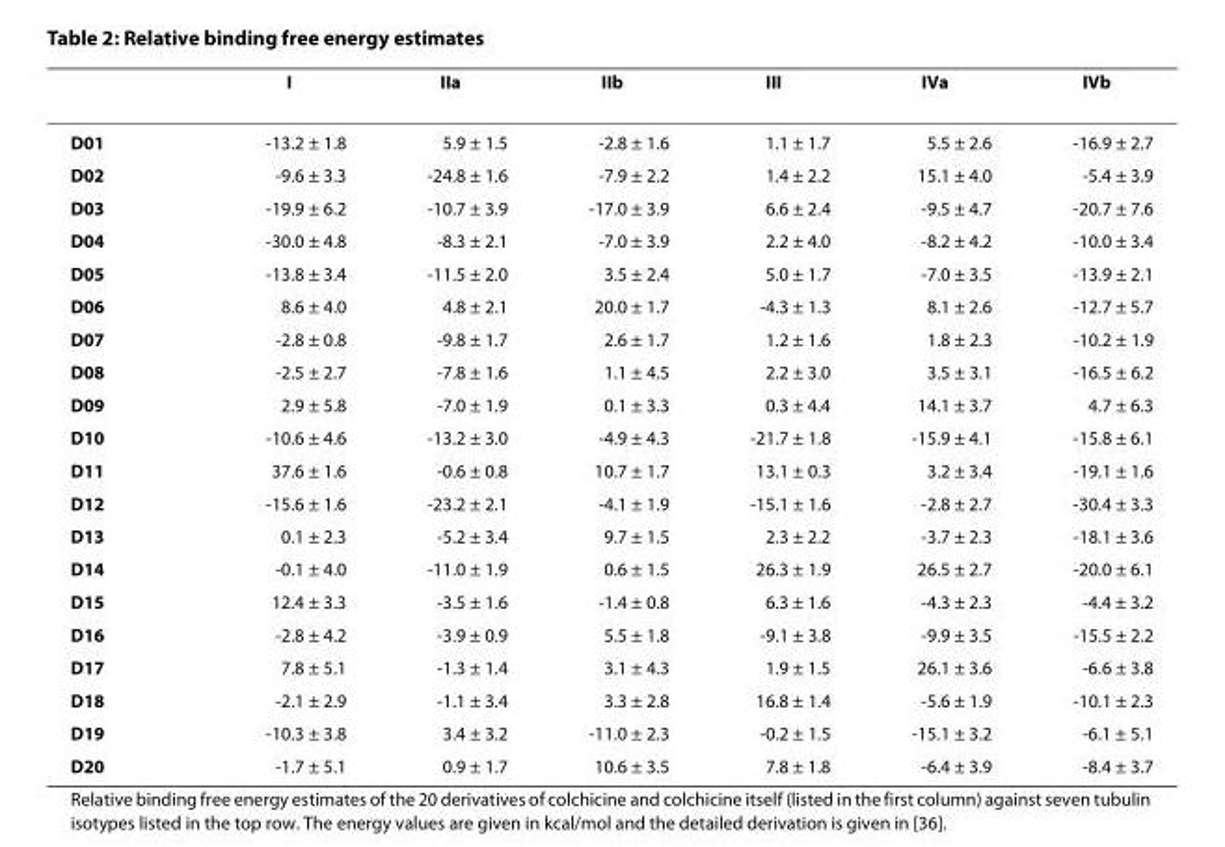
<table><thead><tr><td></td><td>I</td><td>IIa</td><td>IIb</td><td>III</td><td>IVa</td><td>IVb</td></tr></thead><tbody><tr><td>D01</td><td>-13.2 ± 1.8</td><td>5.9 ± 1.5</td><td>-2.8 ± 1.6</td><td>1.1 ± 1.7</td><td>5.5 ± 2.6</td><td>-16.9 ± 2.7</td></tr><tr><td>D02</td><td>-9.6 ± 3.3</td><td>-24.8 ± 1.6</td><td>-7.9 ± 2.2</td><td>1.4 ± 2.2</td><td>15.1 ± 4.0</td><td>-5.4 ± 3.9</td></tr><tr><td>D03</td><td>-19.9 ± 6.2</td><td>-10.7 ± 3.9</td><td>-17.0 ± 3.9</td><td>6.6 ± 2.4</td><td>-9.5 ± 4.7</td><td>-20.7 ± 7.6</td></tr><tr><td>D04</td><td>-30.0 ± 4.8</td><td>-8.3 ± 2.1</td><td>-7.0 ± 3.9</td><td>2.2 ± 4.0</td><td>-8.2 ± 4.2</td><td>-10.0 ± 3.4</td></tr><tr><td>D05</td><td>-13.8 ± 3.4</td><td>-11.5 ± 2.0</td><td>3.5 ± 2.4</td><td>5.0 ± 1.7</td><td>-7.0 ± 3.5</td><td>-13.9 ± 2.1</td></tr><tr><td>D06</td><td>8.6 ± 4.0</td><td>4.8 ± 2.1</td><td>20.0 ± 1.7</td><td>-4.3 ± 1.3</td><td>8.1 ± 2.6</td><td>-12.7 ± 5.7</td></tr><tr><td>D07</td><td>-2.8 ± 0.8</td><td>-9.8 ± 1.7</td><td>2.6 ± 1.7</td><td>1.2 ± 1.6</td><td>1.8 ± 2.3</td><td>-10.2 ± 1.9</td></tr><tr><td>D08</td><td>-2.5 ± 2.7</td><td>-7.8 ± 1.6</td><td>1.1 ± 4.5</td><td>2.2 ± 3.0</td><td>3.5 ± 3.1</td><td>-16.5 ± 6.2</td></tr><tr><td>D09</td><td>2.9 ± 5.8</td><td>-7.0 ± 1.9</td><td>0.1 ± 3.3</td><td>0.3 ± 4.4</td><td>14.1 ± 3.7</td><td>4.7 ± 6.3</td></tr><tr><td>D10</td><td>-10.6 ± 4.6</td><td>-13.2 ± 3.0</td><td>-4.9 ± 4.3</td><td>-21.7 ± 1.8</td><td>-15.9 ± 4.1</td><td>-15.8 ± 6.1</td></tr><tr><td>D11</td><td>37.6 ± 1.6</td><td>-0.6 ± 0.8</td><td>10.7 ± 1.7</td><td>13.1 ± 0.3</td><td>3.2 ± 3.4</td><td>-19.1 ± 1.6</td></tr><tr><td>D12</td><td>-15.6 ± 1.6</td><td>-23.2 ± 2.1</td><td>-4.1 ± 1.9</td><td>-15.1 ± 1.6</td><td>-2.8 ± 2.7</td><td>-30.4 ± 3.3</td></tr><tr><td>D13</td><td>0.1 ± 2.3</td><td>-5.2 ± 3.4</td><td>9.7 ± 1.5</td><td>2.3 ± 2.2</td><td>-3.7 ± 2.3</td><td>-18.1 ± 3.6</td></tr><tr><td>D14</td><td>-0.1 ± 4.0</td><td>-11.0 ± 1.9</td><td>0.6 ± 1.5</td><td>26.3 ± 1.9</td><td>26.5 ± 2.7</td><td>-20.0 ± 6.1</td></tr><tr><td>D15</td><td>12.4 ± 3.3</td><td>-3.5 ± 1.6</td><td>-1.4 ± 0.8</td><td>6.3 ± 1.6</td><td>-4.3 ± 2.3</td><td>-4.4 ± 3.2</td></tr><tr><td>D16</td><td>-2.8 ± 4.2</td><td>-3.9 ± 0.9</td><td>5.5 ± 1.8</td><td>-9.1 ± 3.8</td><td>-9.9 ± 3.5</td><td>-15.5 ± 2.2</td></tr><tr><td>D17</td><td>7.8 ± 5.1</td><td>-1.3 ± 1.4</td><td>3.1 ± 4.3</td><td>1.9 ± 1.5</td><td>26.1 ± 3.6</td><td>-6.6 ± 3.8</td></tr><tr><td>D18</td><td>-2.1 ± 2.9</td><td>-1.1 ± 3.4</td><td>3.3 ± 2.8</td><td>16.8 ± 1.4</td><td>-5.6 ± 1.9</td><td>-10.1 ± 2.3</td></tr><tr><td>D19</td><td>-10.3 ± 3.8</td><td>3.4 ± 3.2</td><td>-11.0 ± 2.3</td><td>-0.2 ± 1.5</td><td>-15.1 ± 3.2</td><td>-6.1 ± 5.1</td></tr><tr><td>D20</td><td>-1.7 ± 5.1</td><td>0.9 ± 1.7</td><td>10.6 ± 3.5</td><td>7.8 ± 1.8</td><td>-6.4 ± 3.9</td><td>-8.4 ± 3.7</td></tr></tbody></table>